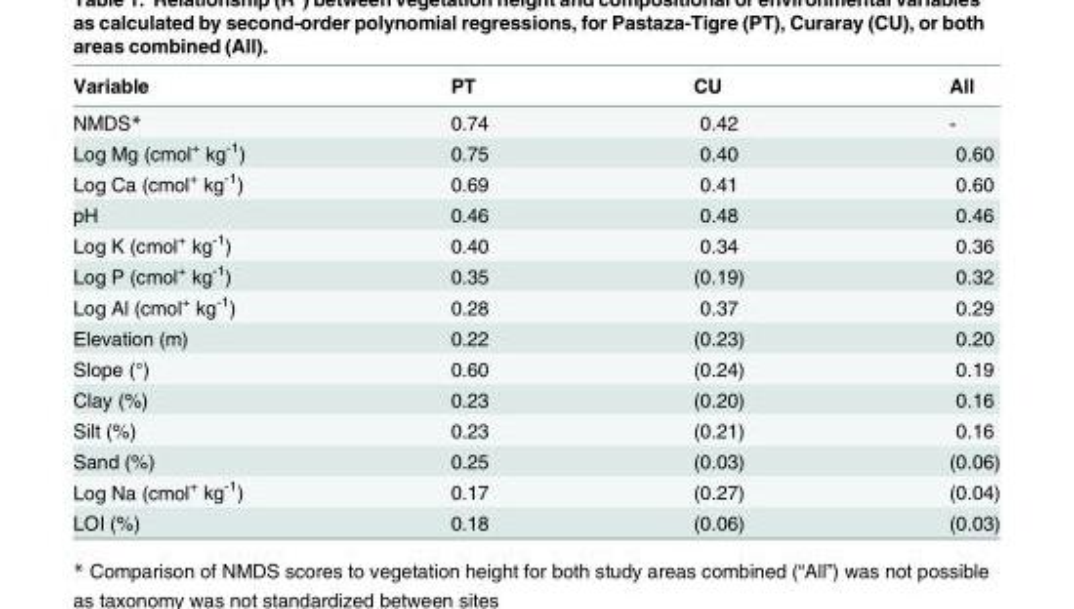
<table><thead><tr><td>Variable</td><td>PT</td><td>CU</td><td>All</td></tr></thead><tbody><tr><td>NMDS*</td><td>0.74</td><td>0.42</td><td>-</td></tr><tr><td>Log Mg (cmol<sup>+</sup> kg<sup>-1</sup>)</td><td>0.75</td><td>0.40</td><td>0.60</td></tr><tr><td>Log Ca (cmol<sup>+</sup> kg<sup>-1</sup>)</td><td>0.69</td><td>0.41</td><td>0.60</td></tr><tr><td>pH</td><td>0.46</td><td>0.48</td><td>0.46</td></tr><tr><td>Log K (cmol<sup>+</sup> kg<sup>-1</sup>)</td><td>0.40</td><td>0.34</td><td>0.36</td></tr><tr><td>Log P (cmol<sup>+</sup> kg<sup>-1</sup>)</td><td>0.35</td><td>(0.19)</td><td>0.32</td></tr><tr><td>Log Al (cmol<sup>+</sup> kg<sup>-1</sup>)</td><td>0.28</td><td>0.37</td><td>0.29</td></tr><tr><td>Elevation (m)</td><td>0.22</td><td>(0.23)</td><td>0.20</td></tr><tr><td>Slope (°)</td><td>0.60</td><td>(0.24)</td><td>0.19</td></tr><tr><td>Clay (%)</td><td>0.23</td><td>(0.20)</td><td>0.16</td></tr><tr><td>Silt (%)</td><td>0.23</td><td>(0.21)</td><td>0.16</td></tr><tr><td>Sand (%)</td><td>0.25</td><td>(0.03)</td><td>(0.06)</td></tr><tr><td>Log Na (cmol<sup>+</sup> kg<sup>-1</sup>)</td><td>0.17</td><td>(0.27)</td><td>(0.04)</td></tr><tr><td>LOI (%)</td><td>0.18</td><td>(0.06)</td><td>(0.03)</td></tr></tbody></table>